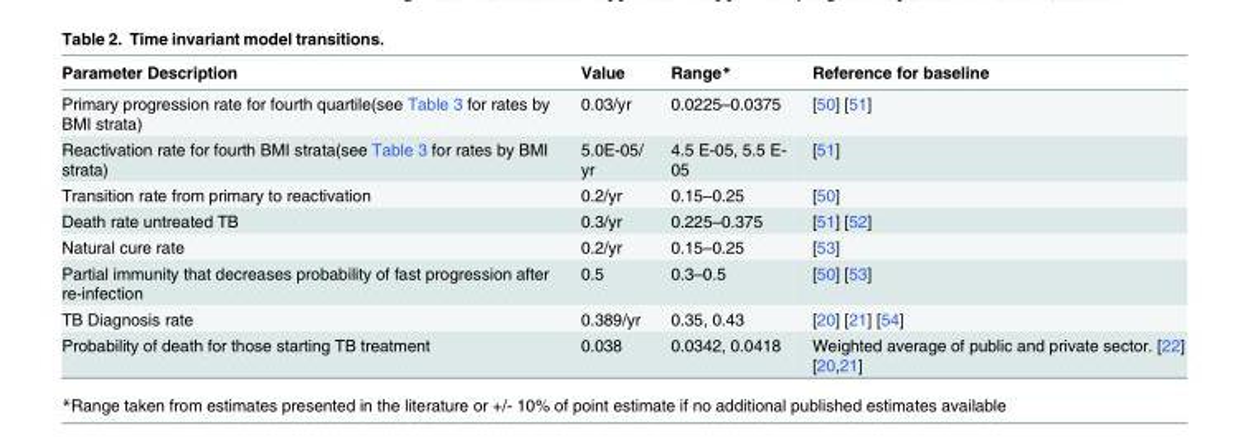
<table><thead><tr><td>Parameter Description</td><td>Value</td><td>Range*</td><td>Reference for baseline</td></tr></thead><tbody><tr><td>Primary progression rate for fourth quartile(see Table 3 for rates by BMI strata)</td><td>0.03/yr</td><td>0.0225–0.0375</td><td>[50] [51]</td></tr><tr><td>Reactivation rate for fourth BMI strata(see Table 3 for rates by BMI strata)</td><td>5.0E-05/ yr</td><td>4.5 E-05, 5.5 E- 05</td><td>[51]</td></tr><tr><td>Transition rate from primary to reactivation</td><td>0.2/yr</td><td>0.15–0.25</td><td>[50]</td></tr><tr><td>Death rate untreated TB</td><td>0.3/yr</td><td>0.225–0.375</td><td>[51] [52]</td></tr><tr><td>Natural cure rate</td><td>0.2/yr</td><td>0.15–0.25</td><td>[53]</td></tr><tr><td>Partial immunity that decreases probability of fast progression after re-infection</td><td>0.5</td><td>0.3–0.5</td><td>[50] [53]</td></tr><tr><td>TB Diagnosis rate</td><td>0.389/yr</td><td>0.35, 0.43</td><td>[20] [21] [54]</td></tr><tr><td>Probability of death for those starting TB treatment</td><td>0.038</td><td>0.0342, 0.0418</td><td>Weighted average of public and private sector. [22] [20,21]</td></tr></tbody></table>